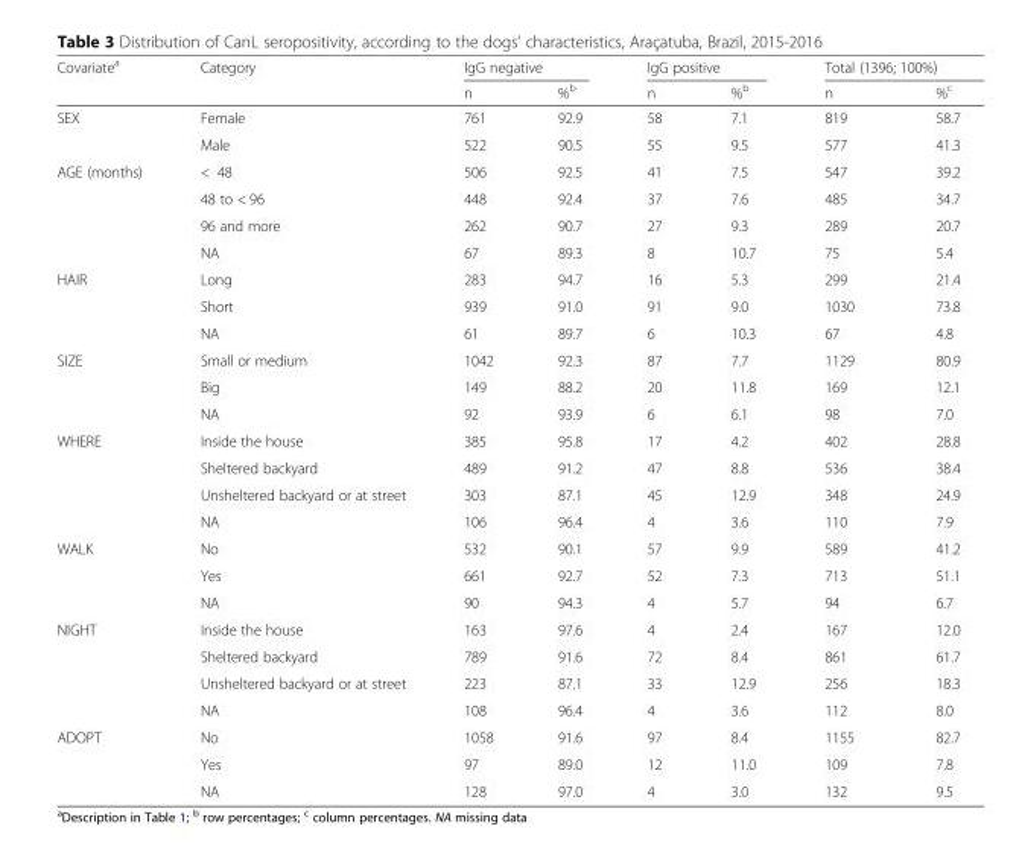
<table><thead><tr><td rowspan="2">Covariate<sup>a</sup></td><td rowspan="2">Category</td><td colspan="2">IgG negative</td><td colspan="2">IgG positive</td><td colspan="2">Total (1396; 100%)</td></tr><tr><td>n</td><td>%<sup>b</sup></td><td>n</td><td>%<sup>b</sup></td><td>n</td><td>%<sup>c</sup></td></tr></thead><tbody><tr><td rowspan="2">SEX</td><td>Female</td><td>761</td><td>92.9</td><td>58</td><td>7.1</td><td>819</td><td>58.7</td></tr><tr><td>Male</td><td>522</td><td>90.5</td><td>55</td><td>9.5</td><td>577</td><td>41.3</td></tr><tr><td rowspan="4">AGE (months)</td><td>&lt; 48</td><td>506</td><td>92.5</td><td>41</td><td>7.5</td><td>547</td><td>39.2</td></tr><tr><td>48 to &lt; 96</td><td>448</td><td>92.4</td><td>37</td><td>7.6</td><td>485</td><td>34.7</td></tr><tr><td>96 and more</td><td>262</td><td>90.7</td><td>27</td><td>9.3</td><td>289</td><td>20.7</td></tr><tr><td>NA</td><td>67</td><td>89.3</td><td>8</td><td>10.7</td><td>75</td><td>5.4</td></tr><tr><td rowspan="3">HAIR</td><td>Long</td><td>283</td><td>94.7</td><td>16</td><td>5.3</td><td>299</td><td>21.4</td></tr><tr><td>Short</td><td>939</td><td>91.0</td><td>91</td><td>9.0</td><td>1030</td><td>73.8</td></tr><tr><td>NA</td><td>61</td><td>89.7</td><td>6</td><td>10.3</td><td>67</td><td>4.8</td></tr><tr><td rowspan="3">SIZE</td><td>Small or medium</td><td>1042</td><td>92.3</td><td>87</td><td>7.7</td><td>1129</td><td>80.9</td></tr><tr><td>Big</td><td>149</td><td>88.2</td><td>20</td><td>11.8</td><td>169</td><td>12.1</td></tr><tr><td>NA</td><td>92</td><td>93.9</td><td>6</td><td>6.1</td><td>98</td><td>7.0</td></tr><tr><td rowspan="4">WHERE</td><td>Inside the house</td><td>385</td><td>95.8</td><td>17</td><td>4.2</td><td>402</td><td>28.8</td></tr><tr><td>Sheltered backyard</td><td>489</td><td>91.2</td><td>47</td><td>8.8</td><td>536</td><td>38.4</td></tr><tr><td>Unsheltered backyard or at street</td><td>303</td><td>87.1</td><td>45</td><td>12.9</td><td>348</td><td>24.9</td></tr><tr><td>NA</td><td>106</td><td>96.4</td><td>4</td><td>3.6</td><td>110</td><td>7.9</td></tr><tr><td rowspan="3">WALK</td><td>No</td><td>532</td><td>90.1</td><td>57</td><td>9.9</td><td>589</td><td>41.2</td></tr><tr><td>Yes</td><td>661</td><td>92.7</td><td>52</td><td>7.3</td><td>713</td><td>51.1</td></tr><tr><td>NA</td><td>90</td><td>94.3</td><td>4</td><td>5.7</td><td>94</td><td>6.7</td></tr><tr><td rowspan="4">NIGHT</td><td>Inside the house</td><td>163</td><td>97.6</td><td>4</td><td>2.4</td><td>167</td><td>12.0</td></tr><tr><td>Sheltered backyard</td><td>789</td><td>91.6</td><td>72</td><td>8.4</td><td>861</td><td>61.7</td></tr><tr><td>Unsheltered backyard or at street</td><td>223</td><td>87.1</td><td>33</td><td>12.9</td><td>256</td><td>18.3</td></tr><tr><td>NA</td><td>108</td><td>96.4</td><td>4</td><td>3.6</td><td>112</td><td>8.0</td></tr><tr><td rowspan="3">ADOPT</td><td>No</td><td>1058</td><td>91.6</td><td>97</td><td>8.4</td><td>1155</td><td>82.7</td></tr><tr><td>Yes</td><td>97</td><td>89.0</td><td>12</td><td>11.0</td><td>109</td><td>7.8</td></tr><tr><td>NA</td><td>128</td><td>97.0</td><td>4</td><td>3.0</td><td>132</td><td>9.5</td></tr></tbody></table>